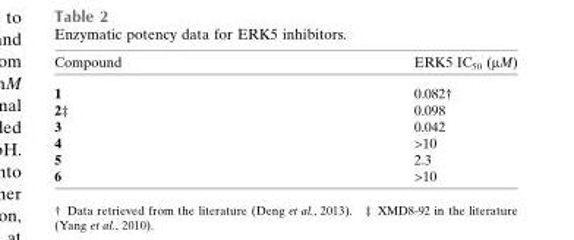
<table><thead><tr><td>Compound</td><td>ERK5 IC<sub>50</sub> (µM)</td></tr></thead><tbody><tr><td>1</td><td>0.082†</td></tr><tr><td>2‡</td><td>0.098</td></tr><tr><td>3</td><td>0.042</td></tr><tr><td>4</td><td>&gt;10</td></tr><tr><td>5</td><td>2.3</td></tr><tr><td>6</td><td>&gt;10</td></tr></tbody></table>